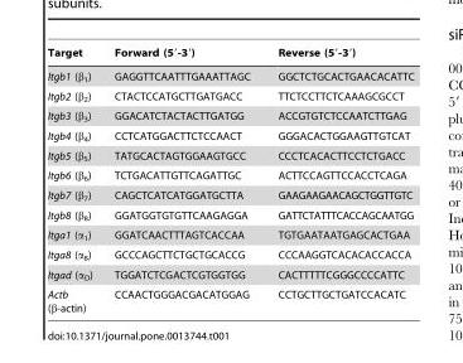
<table><thead><tr><td>Target</td><td>Forward (5′-3′)</td><td>Reverse (5′-3′)</td></tr></thead><tbody><tr><td>Itgb1 (β<sub>1</sub>)</td><td>GAGGTTCAATTTGAAATTAGC</td><td>GGCTCTGCACTGAACACATTC</td></tr><tr><td>Itgb2 (β<sub>2</sub>)</td><td>CTACTCCATGCTTGATGACC</td><td>TTCTCCTTCTCAAAGCGCCT</td></tr><tr><td>Itgb3 (β<sub>3</sub>)</td><td>GGACATCTACTACTTGATGG</td><td>ACCGTGTCTCCAATCTTGAG</td></tr><tr><td>Itgb4 (β<sub>4</sub>)</td><td>CCTCATGGACTTCTCCAACT</td><td>GGGACACTGGAAGTTGTCAT</td></tr><tr><td>Itgb5 (β<sub>5</sub>)</td><td>TATGCACTAGTGGAAGTGCC</td><td>CCCTCACACTTCCTCTGACC</td></tr><tr><td>Itgb6 (β<sub>6</sub>)</td><td>TCTGACATTGTTCAGATTGC</td><td>ACTTCCAGTTCCACCTCAGA</td></tr><tr><td>Itgb7 (β<sub>7</sub>)</td><td>CAGCTCATCATGGATGCTTA</td><td>GAAGAAGAACAGCTGGTTGTC</td></tr><tr><td>Itgb8 (β<sub>8</sub>)</td><td>GGATGGTGTGTTCAAGAGGA</td><td>GATTCTATTTCACCAGCAATGG</td></tr><tr><td>Itga1 (α<sub>1</sub>)</td><td>GGATCAACTTTAGTCACCAA</td><td>TGTGAATAATGAGCACTGAA</td></tr><tr><td>Itga8 (α<sub>8</sub>)</td><td>GCCCAGCTTCTGCTGCACCG</td><td>CCCAAGGTCACACACCACCA</td></tr><tr><td>Itgad (α<sub>D</sub>)</td><td>TGGATCTCGACTCGTGGTGG</td><td>CACTTTTTCGGGCCCCATTC</td></tr><tr><td>Actb (β-actin)</td><td>CCAACTGGGACGACATGGAG</td><td>CCTGCTTGCTGATCCACATC</td></tr></tbody></table>